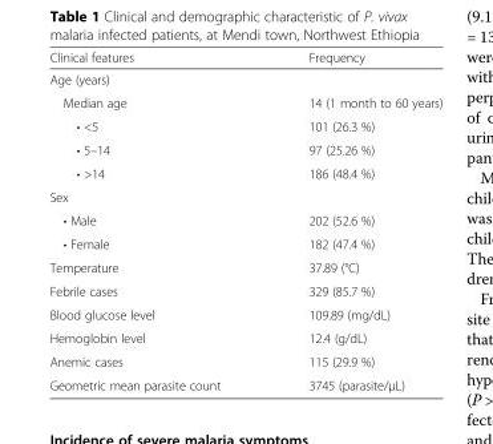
<table><thead><tr><td>Clinical features</td><td>Frequency</td></tr></thead><tbody><tr><td colspan="2">Age (years)</td></tr><tr><td>Median age</td><td>14 (1 month to 60 years)</td></tr><tr><td>• &lt;5</td><td>101 (26.3 %)</td></tr><tr><td>• 5–14</td><td>97 (25.26 %)</td></tr><tr><td>• &gt;14</td><td>186 (48.4 %)</td></tr><tr><td colspan="2">Sex</td></tr><tr><td>• Male</td><td>202 (52.6 %)</td></tr><tr><td>• Female</td><td>182 (47.4 %)</td></tr><tr><td>Temperature</td><td>37.89 (°C)</td></tr><tr><td>Febrile cases</td><td>329 (85.7 %)</td></tr><tr><td>Blood glucose level</td><td>109.89 (mg/dL)</td></tr><tr><td>Hemoglobin level</td><td>12.4 (g/dL)</td></tr><tr><td>Anemic cases</td><td>115 (29.9 %)</td></tr><tr><td>Geometric mean parasite count</td><td>3745 (parasite/μL)</td></tr></tbody></table>